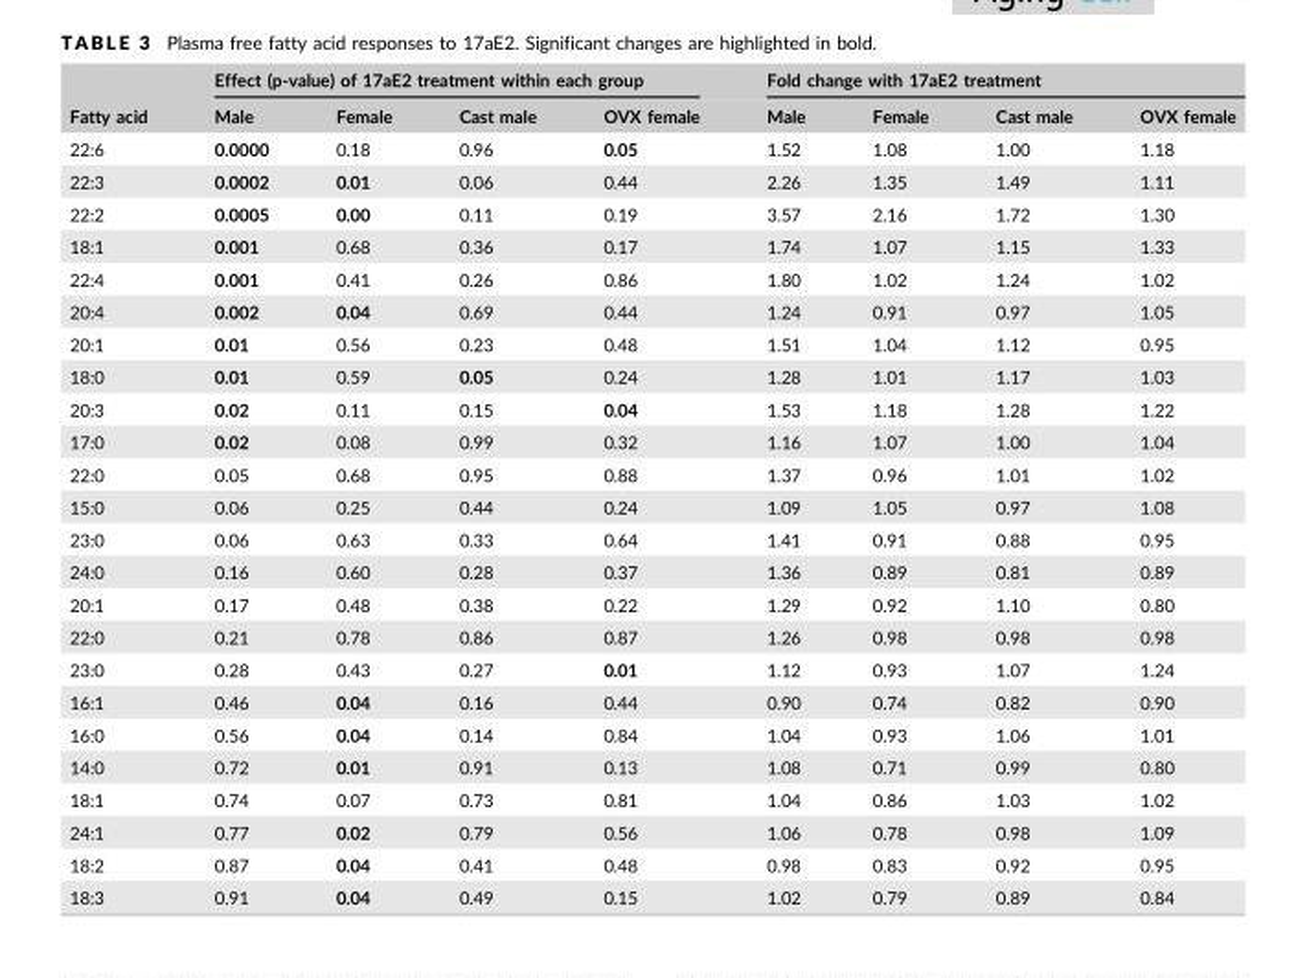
<table><thead><tr><td rowspan="2">Fatty acid</td><td colspan="4">Effect (p-value) of 17aE2 treatment within each group</td><td colspan="4">Fold change with 17aE2 treatment</td></tr><tr><td>Male</td><td>Female</td><td>Cast male</td><td>OVX female</td><td>Male</td><td>Female</td><td>Cast male</td><td>OVX female</td></tr></thead><tbody><tr><td>22:6</td><td>0.0000</td><td>0.18</td><td>0.96</td><td>0.05</td><td>1.52</td><td>1.08</td><td>1.00</td><td>1.18</td></tr><tr><td>22:3</td><td>0.0002</td><td>0.01</td><td>0.06</td><td>0.44</td><td>2.26</td><td>1.35</td><td>1.49</td><td>1.11</td></tr><tr><td>22:2</td><td>0.0005</td><td>0.00</td><td>0.11</td><td>0.19</td><td>3.57</td><td>2.16</td><td>1.72</td><td>1.30</td></tr><tr><td>18:1</td><td>0.001</td><td>0.68</td><td>0.36</td><td>0.17</td><td>1.74</td><td>1.07</td><td>1.15</td><td>1.33</td></tr><tr><td>22:4</td><td>0.001</td><td>0.41</td><td>0.26</td><td>0.86</td><td>1.80</td><td>1.02</td><td>1.24</td><td>1.02</td></tr><tr><td>20:4</td><td>0.002</td><td>0.04</td><td>0.69</td><td>0.44</td><td>1.24</td><td>0.91</td><td>0.97</td><td>1.05</td></tr><tr><td>20:1</td><td>0.01</td><td>0.56</td><td>0.23</td><td>0.48</td><td>1.51</td><td>1.04</td><td>1.12</td><td>0.95</td></tr><tr><td>18:0</td><td>0.01</td><td>0.59</td><td>0.05</td><td>0.24</td><td>1.28</td><td>1.01</td><td>1.17</td><td>1.03</td></tr><tr><td>20:3</td><td>0.02</td><td>0.11</td><td>0.15</td><td>0.04</td><td>1.53</td><td>1.18</td><td>1.28</td><td>1.22</td></tr><tr><td>17:0</td><td>0.02</td><td>0.08</td><td>0.99</td><td>0.32</td><td>1.16</td><td>1.07</td><td>1.00</td><td>1.04</td></tr><tr><td>22:0</td><td>0.05</td><td>0.68</td><td>0.95</td><td>0.88</td><td>1.37</td><td>0.96</td><td>1.01</td><td>1.02</td></tr><tr><td>15:0</td><td>0.06</td><td>0.25</td><td>0.44</td><td>0.24</td><td>1.09</td><td>1.05</td><td>0.97</td><td>1.08</td></tr><tr><td>23:0</td><td>0.06</td><td>0.63</td><td>0.33</td><td>0.64</td><td>1.41</td><td>0.91</td><td>0.88</td><td>0.95</td></tr><tr><td>24:0</td><td>0.16</td><td>0.60</td><td>0.28</td><td>0.37</td><td>1.36</td><td>0.89</td><td>0.81</td><td>0.89</td></tr><tr><td>20:1</td><td>0.17</td><td>0.48</td><td>0.38</td><td>0.22</td><td>1.29</td><td>0.92</td><td>1.10</td><td>0.80</td></tr><tr><td>22:0</td><td>0.21</td><td>0.78</td><td>0.86</td><td>0.87</td><td>1.26</td><td>0.98</td><td>0.98</td><td>0.98</td></tr><tr><td>23:0</td><td>0.28</td><td>0.43</td><td>0.27</td><td>0.01</td><td>1.12</td><td>0.93</td><td>1.07</td><td>1.24</td></tr><tr><td>16:1</td><td>0.46</td><td>0.04</td><td>0.16</td><td>0.44</td><td>0.90</td><td>0.74</td><td>0.82</td><td>0.90</td></tr><tr><td>16:0</td><td>0.56</td><td>0.04</td><td>0.14</td><td>0.84</td><td>1.04</td><td>0.93</td><td>1.06</td><td>1.01</td></tr><tr><td>14:0</td><td>0.72</td><td>0.01</td><td>0.91</td><td>0.13</td><td>1.08</td><td>0.71</td><td>0.99</td><td>0.80</td></tr><tr><td>18:1</td><td>0.74</td><td>0.07</td><td>0.73</td><td>0.81</td><td>1.04</td><td>0.86</td><td>1.03</td><td>1.02</td></tr><tr><td>24:1</td><td>0.77</td><td>0.02</td><td>0.79</td><td>0.56</td><td>1.06</td><td>0.78</td><td>0.98</td><td>1.09</td></tr><tr><td>18:2</td><td>0.87</td><td>0.04</td><td>0.41</td><td>0.48</td><td>0.98</td><td>0.83</td><td>0.92</td><td>0.95</td></tr><tr><td>18:3</td><td>0.91</td><td>0.04</td><td>0.49</td><td>0.15</td><td>1.02</td><td>0.79</td><td>0.89</td><td>0.84</td></tr></tbody></table>